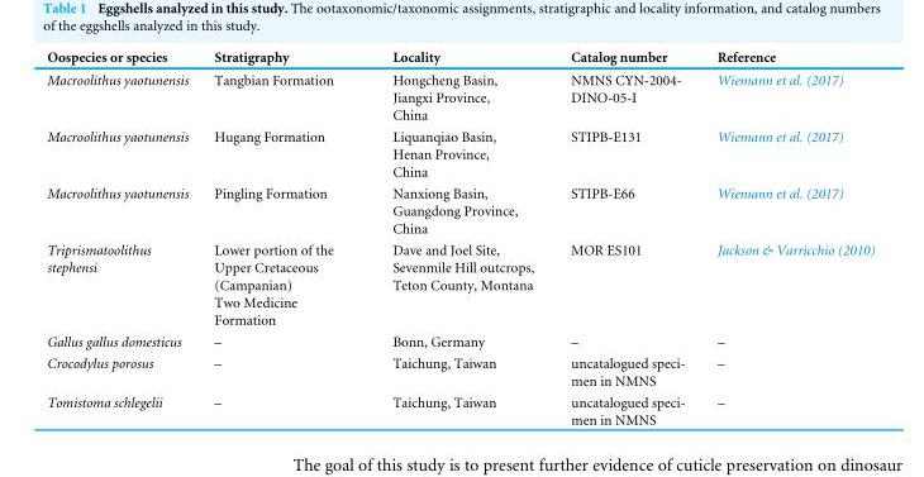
<table><thead><tr><td>Oospecies or species</td><td>Stratigraphy</td><td>Locality</td><td>Catalog number</td><td>Reference</td></tr></thead><tbody><tr><td>Macroolithus yaotunensis</td><td>Tangbian Formation</td><td>Hongcheng Basin, Jiangxi Province, China</td><td>NMNS CYN-2004- DINO-05-I</td><td>Wiemann et al. (2017)</td></tr><tr><td>Macroolithus yaotunensis</td><td>Hugang Formation</td><td>Liquanqiao Basin, Henan Province, China</td><td>STIPB-E131</td><td>Wiemann et al. (2017)</td></tr><tr><td>Macroolithus yaotunensis</td><td>Pingling Formation</td><td>Nanxiong Basin, Guangdong Province, China</td><td>STIPB-E66</td><td>Wiemann et al. (2017)</td></tr><tr><td>Triprismatoolithus stephensi</td><td>Lower portion of the Upper Cretaceous (Campanian) Two Medicine Formation</td><td>Dave and Joel Site, Sevenmile Hill outcrops, Teton County, Montana</td><td>MOR ES101</td><td>Jackson &amp; Varricchio (2010)</td></tr><tr><td>Gallus gallus domesticus</td><td>–</td><td>Bonn, Germany</td><td>–</td><td>–</td></tr><tr><td>Crocodylus porosus</td><td>–</td><td>Taichung, Taiwan</td><td>uncatalogued speci- men in NMNS</td><td>–</td></tr><tr><td>Tomistoma schlegelii</td><td>–</td><td>Taichung, Taiwan</td><td>uncatalogued speci- men in NMNS</td><td>–</td></tr></tbody></table>